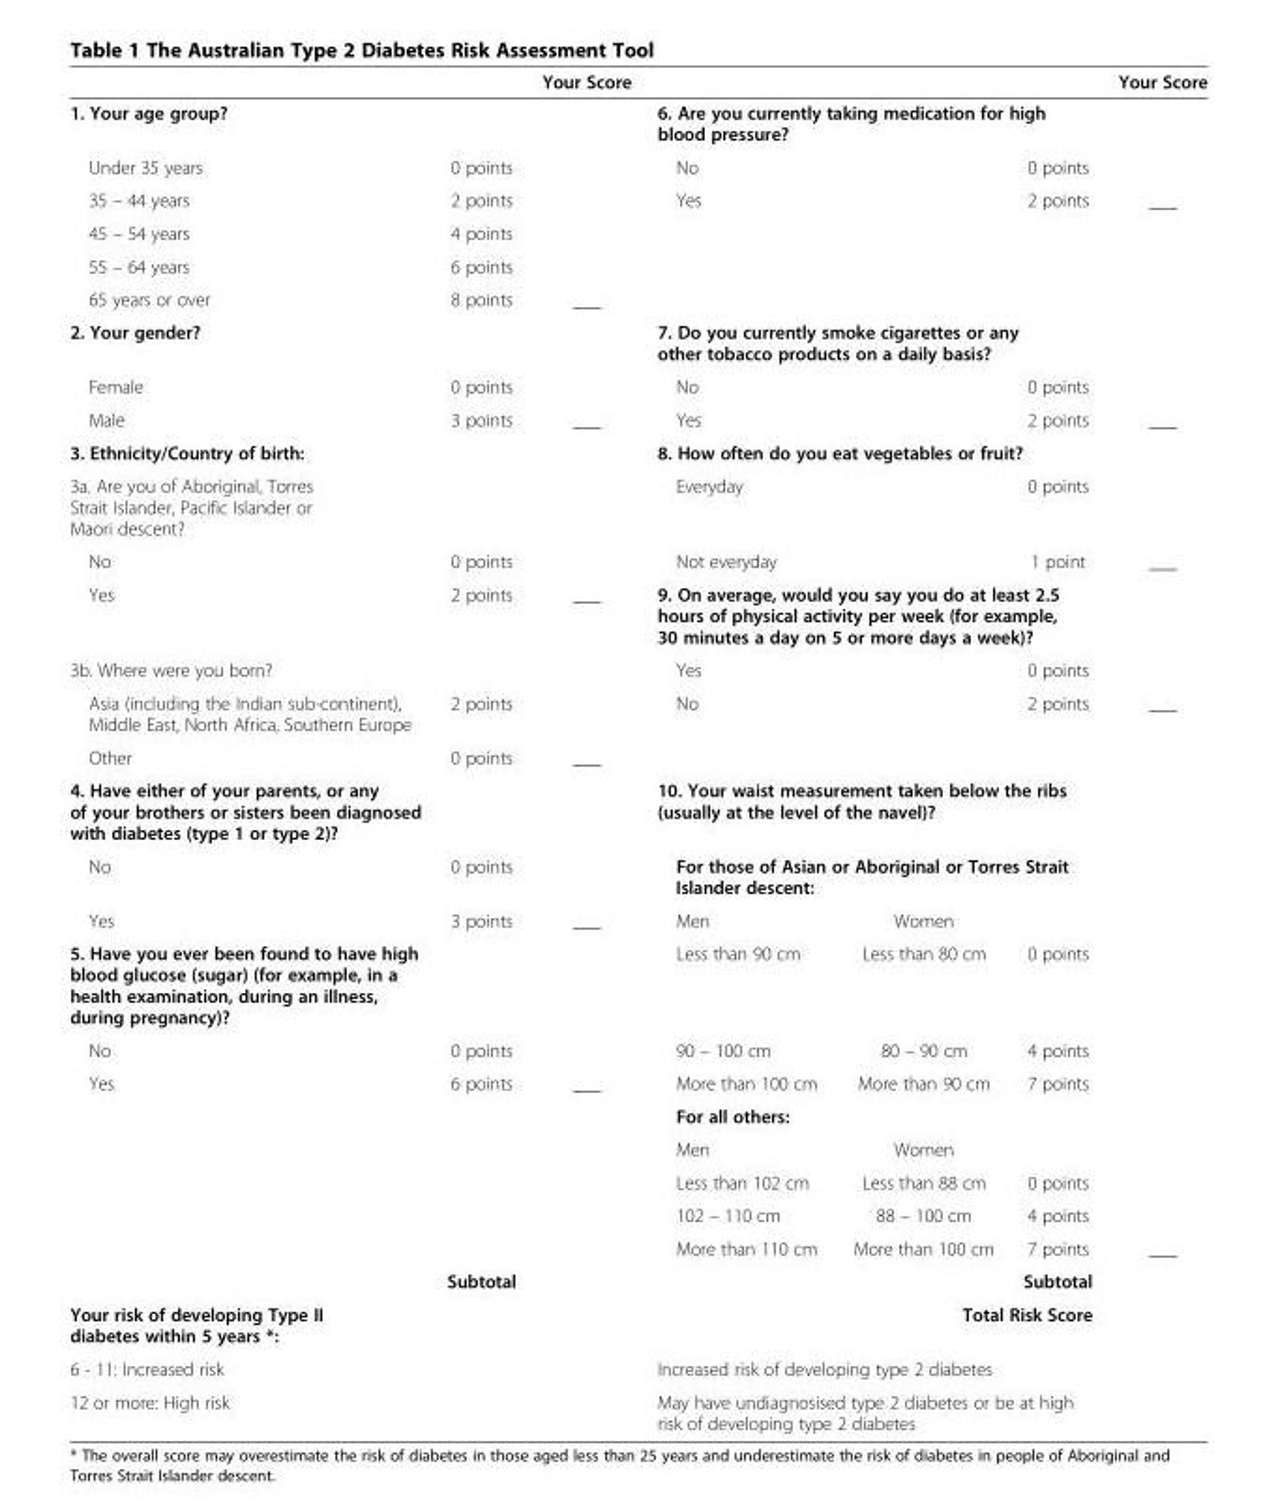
<table><thead><tr><td></td><td></td><td>Your Score</td><td></td><td></td><td></td><td>Your Score</td></tr></thead><tbody><tr><td colspan="2">1. Your age group?</td><td></td><td colspan="3">6. Are you currently taking medication for high blood pressure?</td><td></td></tr><tr><td>Under 35 years</td><td>0 points</td><td></td><td colspan="2">No</td><td>0 points</td><td></td></tr><tr><td>35 – 44 years</td><td>2 points</td><td></td><td colspan="2">Yes</td><td>2 points</td><td>___</td></tr><tr><td>45 – 54 years</td><td>4 points</td><td></td><td colspan="2"></td><td></td><td></td></tr><tr><td>55 – 64 years</td><td>6 points</td><td></td><td colspan="2"></td><td></td><td></td></tr><tr><td>65 years or over</td><td>8 points</td><td>___</td><td colspan="2"></td><td></td><td></td></tr><tr><td colspan="3">2. Your gender?</td><td colspan="3">7. Do you currently smoke cigarettes or any other tobacco products on a daily basis?</td><td></td></tr><tr><td>Female</td><td>0 points</td><td></td><td colspan="2">No</td><td>0 points</td><td></td></tr><tr><td>Male</td><td>3 points</td><td>___</td><td colspan="2">Yes</td><td>2 points</td><td>___</td></tr><tr><td>3. Ethnicity/Country of birth:</td><td></td><td></td><td colspan="3">8. How often do you eat vegetables or fruit?</td><td></td></tr><tr><td>3a. Are you of Aboriginal, Torres Strait Islander, Pacific Islander or Maori descent?</td><td></td><td></td><td colspan="2">Everyday</td><td>0 points</td><td></td></tr><tr><td>No</td><td>0 points</td><td></td><td colspan="2">Not everyday</td><td>1 point</td><td>___</td></tr><tr><td>Yes</td><td>2 points</td><td>___</td><td colspan="3">9. On average, would you say you do at least 2.5 hours of physical activity per week (for example, 30 minutes a day on 5 or more days a week)?</td><td></td></tr><tr><td>3b. Where were you born?</td><td></td><td></td><td colspan="2">Yes</td><td>0 points</td><td></td></tr><tr><td>Asia (including the Indian sub-continent), Middle East, North Africa, Southern Europe</td><td>2 points</td><td></td><td colspan="2">No</td><td>2 points</td><td>___</td></tr><tr><td>Other</td><td>0 points</td><td>___</td><td colspan="2"></td><td></td><td></td></tr><tr><td>4. Have either of your parents, or any of your brothers or sisters been diagnosed with diabetes (type 1 or type 2)?</td><td></td><td></td><td colspan="3">10. Your waist measurement taken below the ribs (usually at the level of the navel)?</td><td></td></tr><tr><td>No</td><td>0 points</td><td></td><td colspan="3">For those of Asian or Aboriginal or Torres Strait Islander descent:</td><td></td></tr><tr><td>Yes</td><td>3 points</td><td>___</td><td>Men</td><td>Women</td><td></td><td></td></tr><tr><td>5. Have you ever been found to have high blood glucose (sugar) (for example, in a health examination, during an illness, during pregnancy)?</td><td></td><td></td><td>Less than 90 cm</td><td>Less than 80 cm</td><td>0 points</td><td></td></tr><tr><td>No</td><td>0 points</td><td></td><td>90 – 100 cm</td><td>80 – 90 cm</td><td>4 points</td><td></td></tr><tr><td rowspan="7">Yes</td><td>6 points</td><td>___</td><td>More than 100 cm</td><td>More than 90 cm</td><td>7 points</td><td></td></tr><tr><td></td><td></td><td>For all others:</td><td></td><td></td><td></td></tr><tr><td></td><td></td><td>Men</td><td>Women</td><td></td><td></td></tr><tr><td></td><td></td><td>Less than 102 cm</td><td>Less than 88 cm</td><td>0 points</td><td></td></tr><tr><td></td><td></td><td>102 – 110 cm</td><td>88 – 100 cm</td><td>4 points</td><td></td></tr><tr><td></td><td></td><td>More than 110 cm</td><td>More than 100 cm</td><td>7 points</td><td>___</td></tr><tr><td>Subtotal</td><td></td><td colspan="3">Subtotal</td><td></td></tr><tr><td colspan="3">Your risk of developing Type II diabetes within 5 years *:</td><td colspan="3">Total Risk Score</td><td></td></tr><tr><td colspan="3">6 - 11: Increased risk</td><td colspan="4">Increased risk of developing type 2 diabetes</td></tr><tr><td colspan="3">12 or more: High risk</td><td colspan="4">May have undiagnosised type 2 diabetes or be at high risk of developing type 2 diabetes</td></tr></tbody></table>